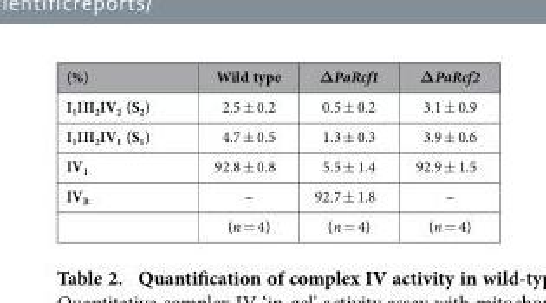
<table><thead><tr><td>(%)</td><td>Wild type</td><td>ΔPaRcf1</td><td>ΔPaRcf2</td></tr></thead><tbody><tr><td>I<sub>1</sub>III<sub>2</sub>IV<sub>2</sub> (S<sub>2</sub>)</td><td>2.5 ± 0.2</td><td>0.5 ± 0.2</td><td>3.1 ± 0.9</td></tr><tr><td>I<sub>1</sub>III<sub>2</sub>IV<sub>1</sub> (S<sub>1</sub>)</td><td>4.7 ± 0.5</td><td>1.3 ± 0.3</td><td>3.9 ± 0.6</td></tr><tr><td>IV<sub>1</sub></td><td>92.8 ± 0.8</td><td>5.5 ± 1.4</td><td>92.9 ± 1.5</td></tr><tr><td rowspan="2">IV<sub>B</sub></td><td>–</td><td>92.7 ± 1.8</td><td>–</td></tr><tr><td>(n = 4)</td><td>(n = 4)</td><td>(n = 4)</td></tr></tbody></table>